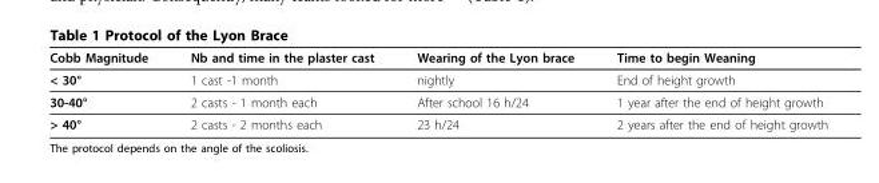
<table><thead><tr><td>Cobb Magnitude</td><td>Nb and time in the plaster cast</td><td>Wearing of the Lyon brace</td><td>Time to begin Weaning</td></tr></thead><tbody><tr><td>&lt; 30°</td><td>1 cast -1 month</td><td>nightly</td><td>End of height growth</td></tr><tr><td>30-40°</td><td>2 casts - 1 month each</td><td>After school 16 h/24</td><td>1 year after the end of height growth</td></tr><tr><td>&gt; 40°</td><td>2 casts - 2 months each</td><td>23 h/24</td><td>2 years after the end of height growth</td></tr></tbody></table>